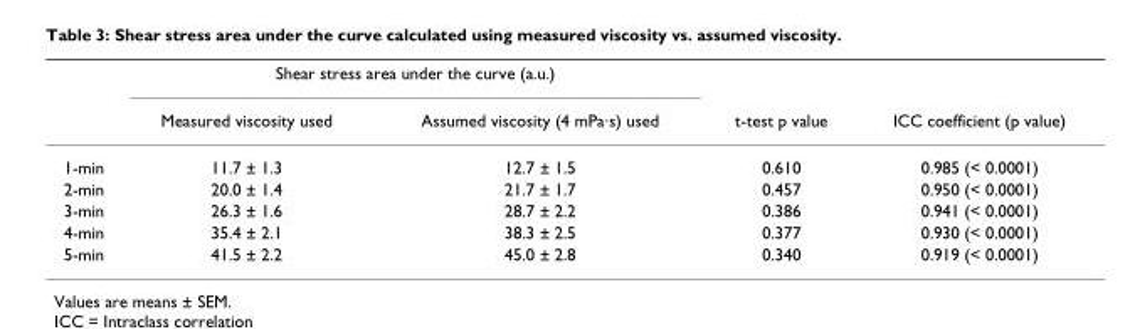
<table><thead><tr><td rowspan="2"></td><td colspan="2">Shear stress area under the curve (a.u.)</td><td rowspan="2">t-test p value</td><td rowspan="2">ICC coefficient (p value)</td></tr><tr><td>Measured viscosity used</td><td>Assumed viscosity (4 mPa·s) used</td></tr></thead><tbody><tr><td>1-min</td><td>11.7 ± 1.3</td><td>12.7 ± 1.5</td><td>0.610</td><td>0.985 (&lt; 0.0001)</td></tr><tr><td>2-min</td><td>20.0 ± 1.4</td><td>21.7 ± 1.7</td><td>0.457</td><td>0.950 (&lt; 0.0001)</td></tr><tr><td>3-min</td><td>26.3 ± 1.6</td><td>28.7 ± 2.2</td><td>0.386</td><td>0.941 (&lt; 0.0001)</td></tr><tr><td>4-min</td><td>35.4 ± 2.1</td><td>38.3 ± 2.5</td><td>0.377</td><td>0.930 (&lt; 0.0001)</td></tr><tr><td>5-min</td><td>41.5 ± 2.2</td><td>45.0 ± 2.8</td><td>0.340</td><td>0.919 (&lt; 0.0001)</td></tr></tbody></table>